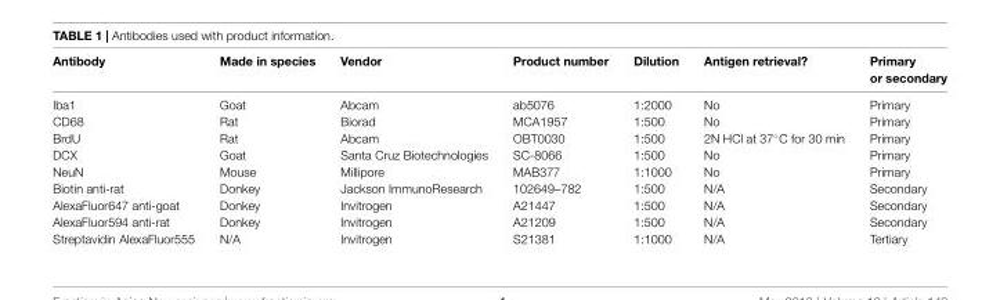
<table><thead><tr><td>Antibody</td><td>Made in species</td><td>Vendor</td><td>Product number</td><td>Dilution</td><td>Antigen retrieval?</td><td>Primary or secondary</td></tr></thead><tbody><tr><td>Iba1</td><td>Goat</td><td>Abcam</td><td>ab5076</td><td>1:2000</td><td>No</td><td>Primary</td></tr><tr><td>CD68</td><td>Rat</td><td>Biorad</td><td>MCA1957</td><td>1:500</td><td>No</td><td>Primary</td></tr><tr><td>BrdU</td><td>Rat</td><td>Abcam</td><td>OBT0030</td><td>1:500</td><td>2N HCl at 37◦C for 30 min</td><td>Primary</td></tr><tr><td>DCX</td><td>Goat</td><td>Santa Cruz Biotechnologies</td><td>SC-8066</td><td>1:500</td><td>No</td><td>Primary</td></tr><tr><td>NeuN</td><td>Mouse</td><td>Millipore</td><td>MAB377</td><td>1:1000</td><td>No</td><td>Primary</td></tr><tr><td>Biotin anti-rat</td><td>Donkey</td><td>Jackson ImmunoResearch</td><td>102649–782</td><td>1:500</td><td>N/A</td><td>Secondary</td></tr><tr><td>AlexaFluor647 anti-goat</td><td>Donkey</td><td>Invitrogen</td><td>A21447</td><td>1:500</td><td>N/A</td><td>Secondary</td></tr><tr><td>AlexaFluor594 anti-rat</td><td>Donkey</td><td>Invitrogen</td><td>A21209</td><td>1:500</td><td>N/A</td><td>Secondary</td></tr><tr><td>Streptavidin AlexaFluor555</td><td>N/A</td><td>Invitrogen</td><td>S21381</td><td>1:1000</td><td>N/A</td><td>Tertiary</td></tr></tbody></table>